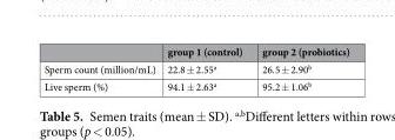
<table><thead><tr><td></td><td>group 1 (control)</td><td>group 2 (probiotics)</td></tr></thead><tbody><tr><td>Sperm count (million/mL)</td><td>22.8 ± 2.55<sup>a</sup></td><td>26.5 ± 2.90<sup>b</sup></td></tr><tr><td>Live sperm (%)</td><td>94.1 ± 2.63<sup>a</sup></td><td>95.2 ± 1.06<sup>b</sup></td></tr></tbody></table>